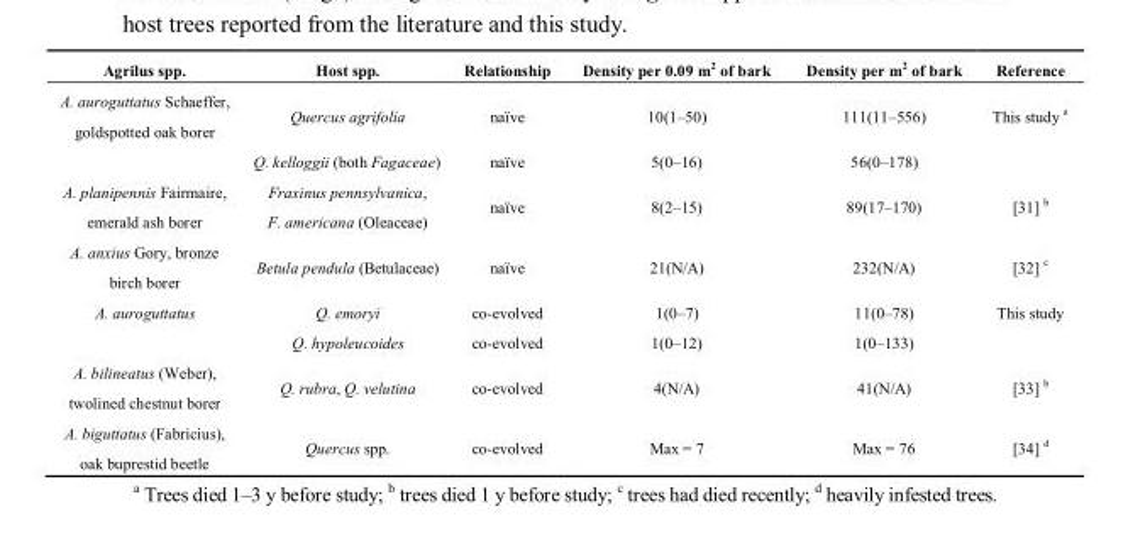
<table><thead><tr><td>Agrilus spp.</td><td>Host spp.</td><td>Relationship</td><td>Density per 0.09 m<sup>2</sup> of bark</td><td>Density per m<sup>2</sup> of bark</td><td>Reference</td></tr></thead><tbody><tr><td rowspan="2">A. auroguttatus Schaeffer, goldspotted oak borer</td><td>Quercus agrifolia</td><td>naïve</td><td>10(1–50)</td><td>111(11–556)</td><td>This study <sup>a</sup></td></tr><tr><td>Q. kelloggii (both Fagaceae)</td><td>naïve</td><td>5(0–16)</td><td>56(0–178)</td><td></td></tr><tr><td>A. planipennis Fairmaire, emerald ash borer</td><td>Fraxinus pennsylvanica, F. americana (Oleaceae)</td><td>naïve</td><td>8(2–15)</td><td>89(17–170)</td><td>[31] <sup>b</sup></td></tr><tr><td>A. anxius Gory, bronze birch borer</td><td>Betula pendula (Betulaceae)</td><td>naïve</td><td>21(N/A)</td><td>232(N/A)</td><td>[32] <sup>c</sup></td></tr><tr><td rowspan="2">A. auroguttatus</td><td>Q. emoryi</td><td>co-evolved</td><td>1(0–7)</td><td>11(0–78)</td><td>This study</td></tr><tr><td>Q. hypoleucoides</td><td>co-evolved</td><td>1(0–12)</td><td>1(0–133)</td><td></td></tr><tr><td>A. bilineatus (Weber), twolined chestnut borer</td><td>Q. rubra, Q. velutina</td><td>co-evolved</td><td>4(N/A)</td><td>41(N/A)</td><td>[33] <sup>b</sup></td></tr><tr><td>A. biguttatus (Fabricius), oak buprestid beetle</td><td>Quercus spp.</td><td>co-evolved</td><td>Max = 7</td><td>Max = 76</td><td>[34] <sup>d</sup></td></tr></tbody></table>